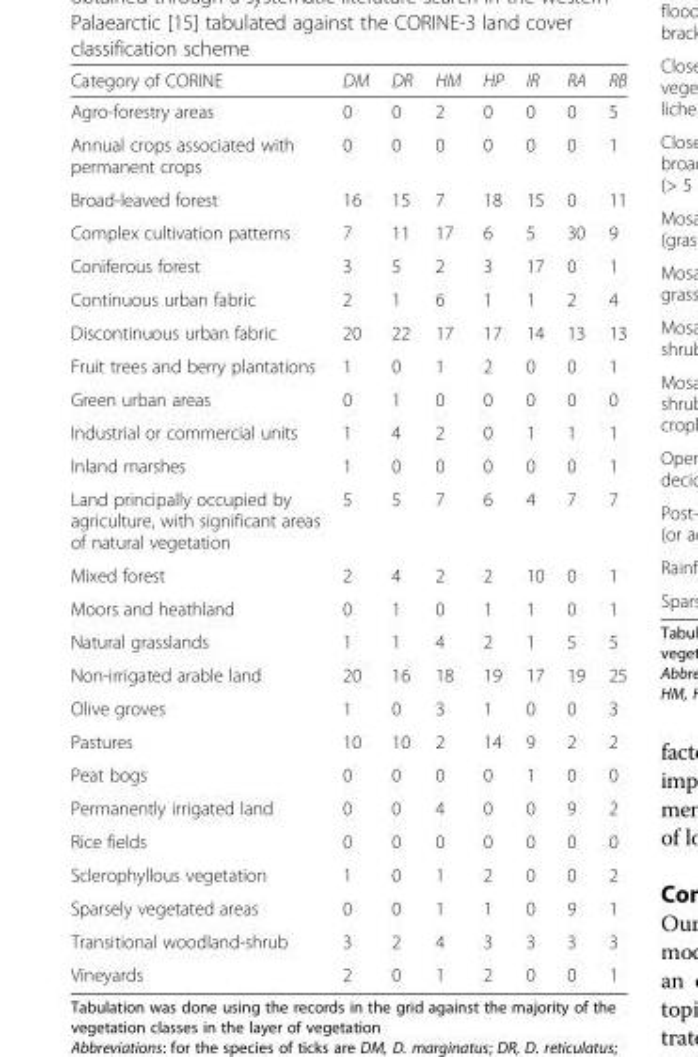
<table><thead><tr><td>Category of CORINE</td><td>DM</td><td>DR</td><td>HM</td><td>HP</td><td>IR</td><td>RA</td><td>RB</td></tr></thead><tbody><tr><td>Agro-forestry areas</td><td>0</td><td>0</td><td>2</td><td>0</td><td>0</td><td>0</td><td>5</td></tr><tr><td>Annual crops associated with permanent crops</td><td>0</td><td>0</td><td>0</td><td>0</td><td>0</td><td>0</td><td>1</td></tr><tr><td>Broad-leaved forest</td><td>16</td><td>15</td><td>7</td><td>18</td><td>15</td><td>0</td><td>11</td></tr><tr><td>Complex cultivation patterns</td><td>7</td><td>11</td><td>17</td><td>6</td><td>5</td><td>30</td><td>9</td></tr><tr><td>Coniferous forest</td><td>3</td><td>5</td><td>2</td><td>3</td><td>17</td><td>0</td><td>1</td></tr><tr><td>Continuous urban fabric</td><td>2</td><td>1</td><td>6</td><td>1</td><td>1</td><td>2</td><td>4</td></tr><tr><td>Discontinuous urban fabric</td><td>20</td><td>22</td><td>17</td><td>17</td><td>14</td><td>13</td><td>13</td></tr><tr><td>Fruit trees and berry plantations</td><td>1</td><td>0</td><td>1</td><td>2</td><td>0</td><td>0</td><td>1</td></tr><tr><td>Green urban areas</td><td>0</td><td>1</td><td>0</td><td>0</td><td>0</td><td>0</td><td>0</td></tr><tr><td>Industrial or commercial units</td><td>1</td><td>4</td><td>2</td><td>0</td><td>1</td><td>1</td><td>1</td></tr><tr><td>Inland marshes</td><td>1</td><td>0</td><td>0</td><td>0</td><td>0</td><td>0</td><td>1</td></tr><tr><td>Land principally occupied by agriculture, with significant areas of natural vegetation</td><td>5</td><td>5</td><td>7</td><td>6</td><td>4</td><td>7</td><td>7</td></tr><tr><td>Mixed forest</td><td>2</td><td>4</td><td>2</td><td>2</td><td>10</td><td>0</td><td>1</td></tr><tr><td>Moors and heathland</td><td>0</td><td>1</td><td>0</td><td>1</td><td>1</td><td>0</td><td>1</td></tr><tr><td>Natural grasslands</td><td>1</td><td>1</td><td>4</td><td>2</td><td>1</td><td>5</td><td>5</td></tr><tr><td>Non-irrigated arable land</td><td>20</td><td>16</td><td>18</td><td>19</td><td>17</td><td>19</td><td>25</td></tr><tr><td>Olive groves</td><td>1</td><td>0</td><td>3</td><td>1</td><td>0</td><td>0</td><td>3</td></tr><tr><td>Pastures</td><td>10</td><td>10</td><td>2</td><td>14</td><td>9</td><td>2</td><td>2</td></tr><tr><td>Peat bogs</td><td>0</td><td>0</td><td>0</td><td>0</td><td>1</td><td>0</td><td>0</td></tr><tr><td>Permanently irrigated land</td><td>0</td><td>0</td><td>4</td><td>0</td><td>0</td><td>9</td><td>2</td></tr><tr><td>Rice fields</td><td>0</td><td>0</td><td>0</td><td>0</td><td>0</td><td>0</td><td>0</td></tr><tr><td>Sclerophyllous vegetation</td><td>1</td><td>0</td><td>1</td><td>2</td><td>0</td><td>0</td><td>2</td></tr><tr><td>Sparsely vegetated areas</td><td>0</td><td>0</td><td>1</td><td>1</td><td>0</td><td>9</td><td>1</td></tr><tr><td>Transitional woodland-shrub</td><td>3</td><td>2</td><td>4</td><td>3</td><td>3</td><td>3</td><td>3</td></tr><tr><td>Vineyards</td><td>2</td><td>0</td><td>1</td><td>2</td><td>0</td><td>0</td><td>1</td></tr></tbody></table>